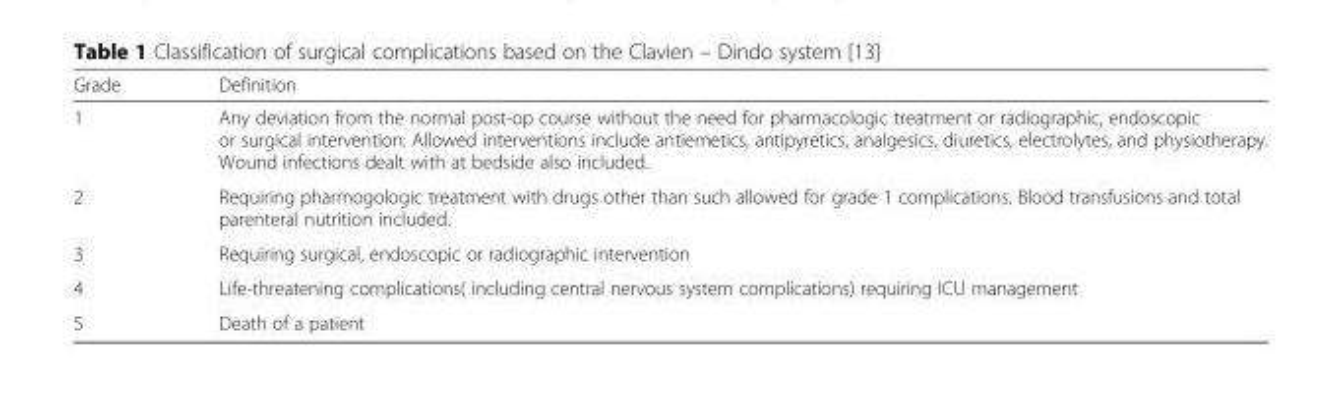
<table><thead><tr><td>Grade</td><td>Definition</td></tr></thead><tbody><tr><td>1</td><td>Any deviation from the normal post-op course without the need for pharmacologic treatment or radiographic, endoscopic or surgical intervention. Allowed interventions include antiemetics, antipyretics, analgesics, diuretics, electrolytes, and physiotherapy. Wound infections dealt with at bedside also included.</td></tr><tr><td>2</td><td>Requiring pharmogologic treatment with drugs other than such allowed for grade 1 complications. Blood transfusions and total parenteral nutrition included.</td></tr><tr><td>3</td><td>Requiring surgical, endoscopic or radiographic intervention</td></tr><tr><td>4</td><td>Life-threatening complications( including central nervous system complications) requiring ICU management</td></tr><tr><td>5</td><td>Death of a patient</td></tr></tbody></table>